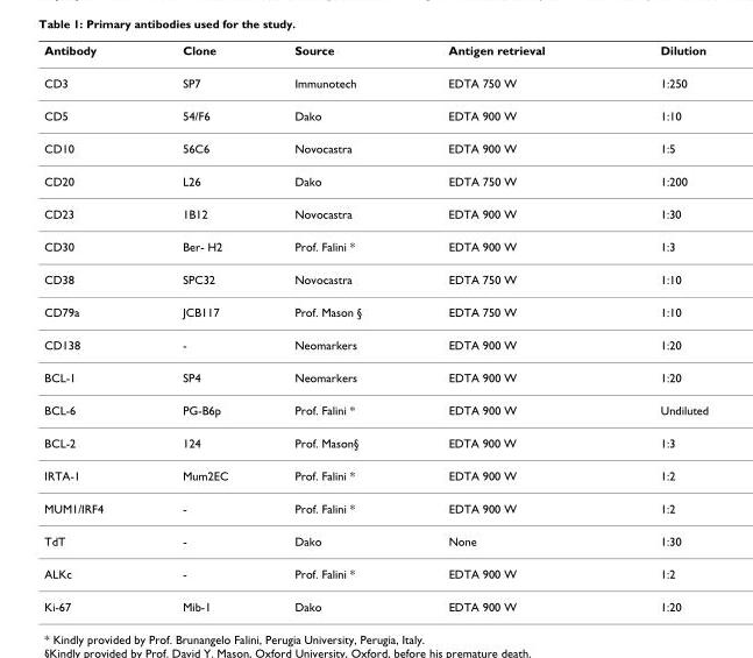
<table><thead><tr><td>Antibody</td><td>Clone</td><td>Source</td><td>Antigen retrieval</td><td>Dilution</td></tr></thead><tbody><tr><td>CD3</td><td>SP7</td><td>Immunotech</td><td>EDTA 750 W</td><td>1:250</td></tr><tr><td>CD5</td><td>54/F6</td><td>Dako</td><td>EDTA 900 W</td><td>1:10</td></tr><tr><td>CD10</td><td>56C6</td><td>Novocastra</td><td>EDTA 900 W</td><td>1:5</td></tr><tr><td>CD20</td><td>L26</td><td>Dako</td><td>EDTA 750 W</td><td>1:200</td></tr><tr><td>CD23</td><td>1B12</td><td>Novocastra</td><td>EDTA 900 W</td><td>1:30</td></tr><tr><td>CD30</td><td>Ber- H2</td><td>Prof. Falini *</td><td>EDTA 900 W</td><td>1:3</td></tr><tr><td>CD38</td><td>SPC32</td><td>Novocastra</td><td>EDTA 750 W</td><td>1:10</td></tr><tr><td>CD79a</td><td>JCB117</td><td>Prof. Mason §</td><td>EDTA 750 W</td><td>1:10</td></tr><tr><td>CD138</td><td>-</td><td>Neomarkers</td><td>EDTA 900 W</td><td>1:20</td></tr><tr><td>BCL-1</td><td>SP4</td><td>Neomarkers</td><td>EDTA 900 W</td><td>1:20</td></tr><tr><td>BCL-6</td><td>PG-B6p</td><td>Prof. Falini *</td><td>EDTA 900 W</td><td>Undiluted</td></tr><tr><td>BCL-2</td><td>124</td><td>Prof. Mason§</td><td>EDTA 900 W</td><td>1:3</td></tr><tr><td>IRTA-1</td><td>Mum2EC</td><td>Prof. Falini *</td><td>EDTA 900 W</td><td>1:2</td></tr><tr><td>MUM1/IRF4</td><td>-</td><td>Prof. Falini *</td><td>EDTA 900 W</td><td>1:2</td></tr><tr><td>TdT</td><td>-</td><td>Dako</td><td>None</td><td>1:30</td></tr><tr><td>ALKc</td><td>-</td><td>Prof. Falini *</td><td>EDTA 900 W</td><td>1:2</td></tr><tr><td>Ki-67</td><td>Mib-1</td><td>Dako</td><td>EDTA 900 W</td><td>1:20</td></tr></tbody></table>